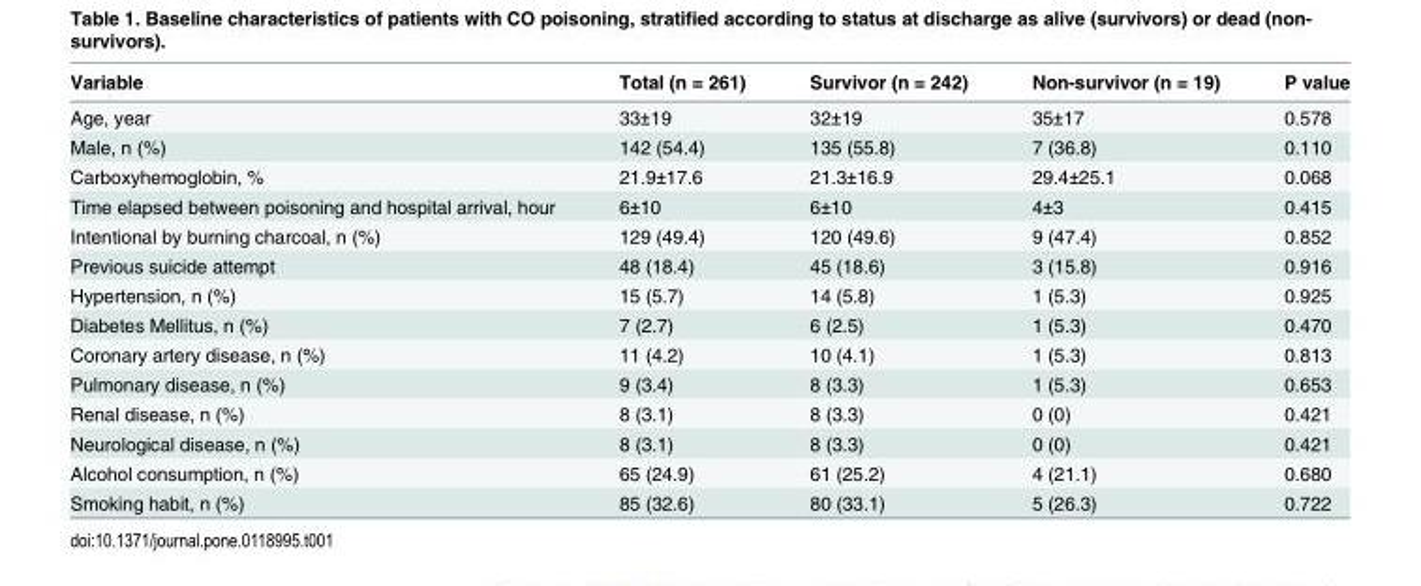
<table><thead><tr><td>Variable</td><td>Total (n = 261)</td><td>Survivor (n = 242)</td><td>Non-survivor (n = 19)</td><td>P value</td></tr></thead><tbody><tr><td>Age, year</td><td>33±19</td><td>32±19</td><td>35±17</td><td>0.578</td></tr><tr><td>Male, n (%)</td><td>142 (54.4)</td><td>135 (55.8)</td><td>7 (36.8)</td><td>0.110</td></tr><tr><td>Carboxyhemoglobin, %</td><td>21.9±17.6</td><td>21.3±16.9</td><td>29.4±25.1</td><td>0.068</td></tr><tr><td>Time elapsed between poisoning and hospital arrival, hour</td><td>6±10</td><td>6±10</td><td>4±3</td><td>0.415</td></tr><tr><td>Intentional by burning charcoal, n (%)</td><td>129 (49.4)</td><td>120 (49.6)</td><td>9 (47.4)</td><td>0.852</td></tr><tr><td>Previous suicide attempt</td><td>48 (18.4)</td><td>45 (18.6)</td><td>3 (15.8)</td><td>0.916</td></tr><tr><td>Hypertension, n (%)</td><td>15 (5.7)</td><td>14 (5.8)</td><td>1 (5.3)</td><td>0.925</td></tr><tr><td>Diabetes Mellitus, n (%)</td><td>7 (2.7)</td><td>6 (2.5)</td><td>1 (5.3)</td><td>0.470</td></tr><tr><td>Coronary artery disease, n (%)</td><td>11 (4.2)</td><td>10 (4.1)</td><td>1 (5.3)</td><td>0.813</td></tr><tr><td>Pulmonary disease, n (%)</td><td>9 (3.4)</td><td>8 (3.3)</td><td>1 (5.3)</td><td>0.653</td></tr><tr><td>Renal disease, n (%)</td><td>8 (3.1)</td><td>8 (3.3)</td><td>0 (0)</td><td>0.421</td></tr><tr><td>Neurological disease, n (%)</td><td>8 (3.1)</td><td>8 (3.3)</td><td>0 (0)</td><td>0.421</td></tr><tr><td>Alcohol consumption, n (%)</td><td>65 (24.9)</td><td>61 (25.2)</td><td>4 (21.1)</td><td>0.680</td></tr><tr><td>Smoking habit, n (%)</td><td>85 (32.6)</td><td>80 (33.1)</td><td>5 (26.3)</td><td>0.722</td></tr></tbody></table>